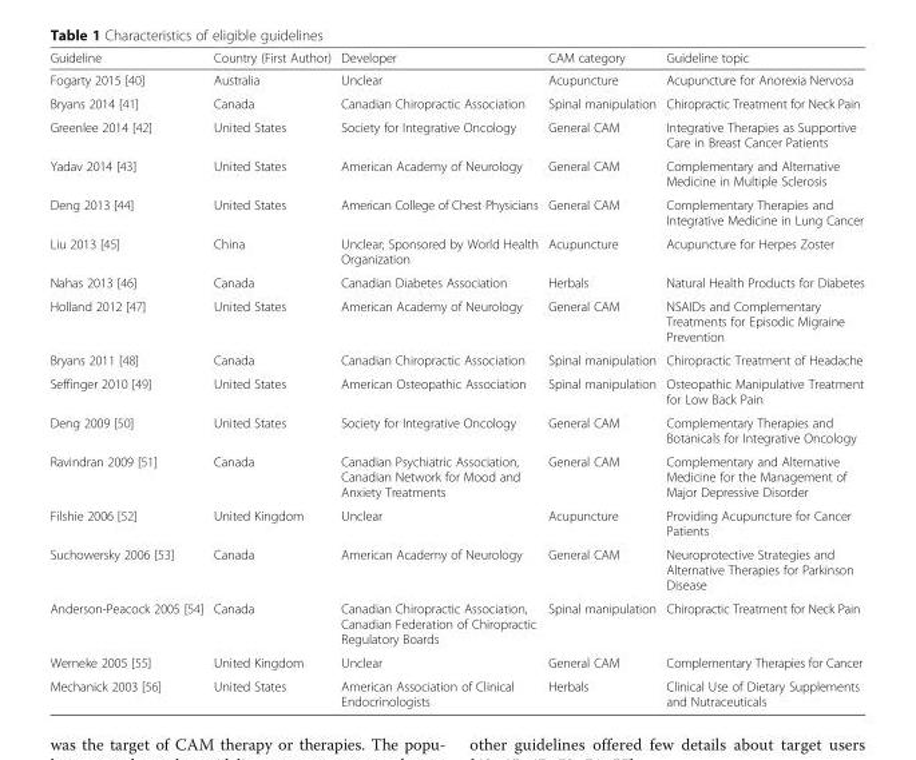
<table><thead><tr><td>Guideline</td><td>Country (First Author)</td><td>Developer</td><td>CAM category</td><td>Guideline topic</td></tr></thead><tbody><tr><td>Fogarty 2015 [40]</td><td>Australia</td><td>Unclear</td><td>Acupuncture</td><td>Acupuncture for Anorexia Nervosa</td></tr><tr><td>Bryans 2014 [41]</td><td>Canada</td><td>Canadian Chiropractic Association</td><td>Spinal manipulation</td><td>Chiropractic Treatment for Neck Pain</td></tr><tr><td>Greenlee 2014 [42]</td><td>United States</td><td>Society for Integrative Oncology</td><td>General CAM</td><td>Integrative Therapies as Supportive Care in Breast Cancer Patients</td></tr><tr><td>Yadav 2014 [43]</td><td>United States</td><td>American Academy of Neurology</td><td>General CAM</td><td>Complementary and Alternative Medicine in Multiple Sclerosis</td></tr><tr><td>Deng 2013 [44]</td><td>United States</td><td>American College of Chest Physicians</td><td>General CAM</td><td>Complementary Therapies and Integrative Medicine in Lung Cancer</td></tr><tr><td>Liu 2013 [45]</td><td>China</td><td>Unclear; Sponsored by World Health Organization</td><td>Acupuncture</td><td>Acupuncture for Herpes Zoster</td></tr><tr><td>Nahas 2013 [46]</td><td>Canada</td><td>Canadian Diabetes Association</td><td>Herbals</td><td>Natural Health Products for Diabetes</td></tr><tr><td>Holland 2012 [47]</td><td>United States</td><td>American Academy of Neurology</td><td>General CAM</td><td>NSAIDs and Complementary Treatments for Episodic Migraine Prevention</td></tr><tr><td>Bryans 2011 [48]</td><td>Canada</td><td>Canadian Chiropractic Association</td><td>Spinal manipulation</td><td>Chiropractic Treatment of Headache</td></tr><tr><td>Seffinger 2010 [49]</td><td>United States</td><td>American Osteopathic Association</td><td>Spinal manipulation</td><td>Osteopathic Manipulative Treatment for Low Back Pain</td></tr><tr><td>Deng 2009 [50]</td><td>United States</td><td>Society for Integrative Oncology</td><td>General CAM</td><td>Complementary Therapies and Botanicals for Integrative Oncology</td></tr><tr><td>Ravindran 2009 [51]</td><td>Canada</td><td>Canadian Psychiatric Association, Canadian Network for Mood and Anxiety Treatments</td><td>General CAM</td><td>Complementary and Alternative Medicine for the Management of Major Depressive Disorder</td></tr><tr><td>Filshie 2006 [52]</td><td>United Kingdom</td><td>Unclear</td><td>Acupuncture</td><td>Providing Acupuncture for Cancer Patients</td></tr><tr><td>Suchowersky 2006 [53]</td><td>Canada</td><td>American Academy of Neurology</td><td>General CAM</td><td>Neuroprotective Strategies and Alternative Therapies for Parkinson Disease</td></tr><tr><td>Anderson-Peacock 2005 [54]</td><td>Canada</td><td>Canadian Chiropractic Association, Canadian Federation of Chiropractic Regulatory Boards</td><td>Spinal manipulation</td><td>Chiropractic Treatment for Neck Pain</td></tr><tr><td>Werneke 2005 [55]</td><td>United Kingdom</td><td>Unclear</td><td>General CAM</td><td>Complementary Therapies for Cancer</td></tr><tr><td>Mechanick 2003 [56]</td><td>United States</td><td>American Association of Clinical Endocrinologists</td><td>Herbals</td><td>Clinical Use of Dietary Supplements and Nutraceuticals</td></tr></tbody></table>